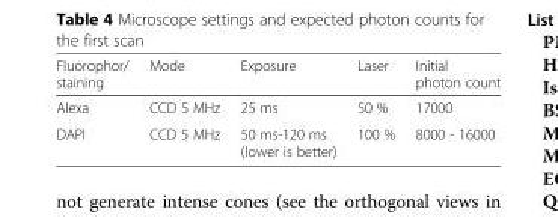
<table><thead><tr><td>Fluorophor/ staining</td><td>Mode</td><td>Exposure</td><td>Laser</td><td>Initial photon count</td></tr></thead><tbody><tr><td>Alexa</td><td>CCD 5 MHz</td><td>25 ms</td><td>50 %</td><td>17000</td></tr><tr><td>DAPI</td><td>CCD 5 MHz</td><td>50 ms-120 ms (lower is better)</td><td>100 %</td><td>8000 - 16000</td></tr></tbody></table>